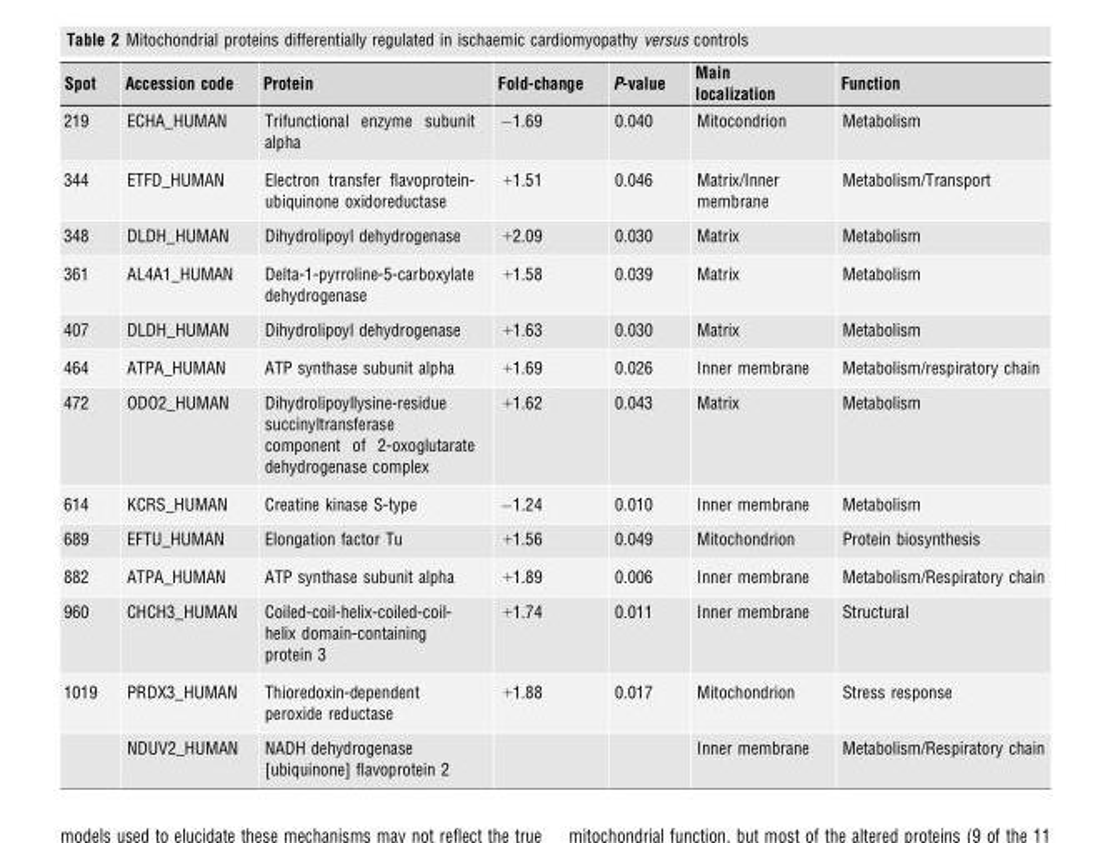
<table><thead><tr><td>Spot</td><td>Accession code</td><td>Protein</td><td>Fold-change</td><td>P-value</td><td>Main localization</td><td>Function</td></tr></thead><tbody><tr><td>219</td><td>ECHA_HUMAN</td><td>Trifunctional enzyme subunit alpha</td><td>−1.69</td><td>0.040</td><td>Mitocondrion</td><td>Metabolism</td></tr><tr><td>344</td><td>ETFD_HUMAN</td><td>Electron transfer flavoprotein- ubiquinone oxidoreductase</td><td>+1.51</td><td>0.046</td><td>Matrix/Inner membrane</td><td>Metabolism/Transport</td></tr><tr><td>348</td><td>DLDH_HUMAN</td><td>Dihydrolipoyl dehydrogenase</td><td>+2.09</td><td>0.030</td><td>Matrix</td><td>Metabolism</td></tr><tr><td>361</td><td>AL4A1_HUMAN</td><td>Delta-1-pyrroline-5-carboxylate dehydrogenase</td><td>+1.58</td><td>0.039</td><td>Matrix</td><td>Metabolism</td></tr><tr><td>407</td><td>DLDH_HUMAN</td><td>Dihydrolipoyl dehydrogenase</td><td>+1.63</td><td>0.030</td><td>Matrix</td><td>Metabolism</td></tr><tr><td>464</td><td>ATPA_HUMAN</td><td>ATP synthase subunit alpha</td><td>+1.69</td><td>0.026</td><td>Inner membrane</td><td>Metabolism/respiratory chain</td></tr><tr><td>472</td><td>ODO2_HUMAN</td><td>Dihydrolipoyllysine-residue succinyltransferase component of 2-oxoglutarate dehydrogenase complex</td><td>+1.62</td><td>0.043</td><td>Matrix</td><td>Metabolism</td></tr><tr><td>614</td><td>KCRS_HUMAN</td><td>Creatine kinase S-type</td><td>−1.24</td><td>0.010</td><td>Inner membrane</td><td>Metabolism</td></tr><tr><td>689</td><td>EFTU_HUMAN</td><td>Elongation factor Tu</td><td>+1.56</td><td>0.049</td><td>Mitochondrion</td><td>Protein biosynthesis</td></tr><tr><td>882</td><td>ATPA_HUMAN</td><td>ATP synthase subunit alpha</td><td>+1.89</td><td>0.006</td><td>Inner membrane</td><td>Metabolism/Respiratory chain</td></tr><tr><td>960</td><td>CHCH3_HUMAN</td><td>Coiled-coil-helix-coiled-coil- helix domain-containing protein 3</td><td>+1.74</td><td>0.011</td><td>Inner membrane</td><td>Structural</td></tr><tr><td rowspan="2">1019</td><td>PRDX3_HUMAN</td><td>Thioredoxin-dependent peroxide reductase</td><td>+1.88</td><td>0.017</td><td>Mitochondrion</td><td>Stress response</td></tr><tr><td>NDUV2_HUMAN</td><td>NADH dehydrogenase [ubiquinone] flavoprotein 2</td><td></td><td></td><td>Inner membrane</td><td>Metabolism/Respiratory chain</td></tr></tbody></table>